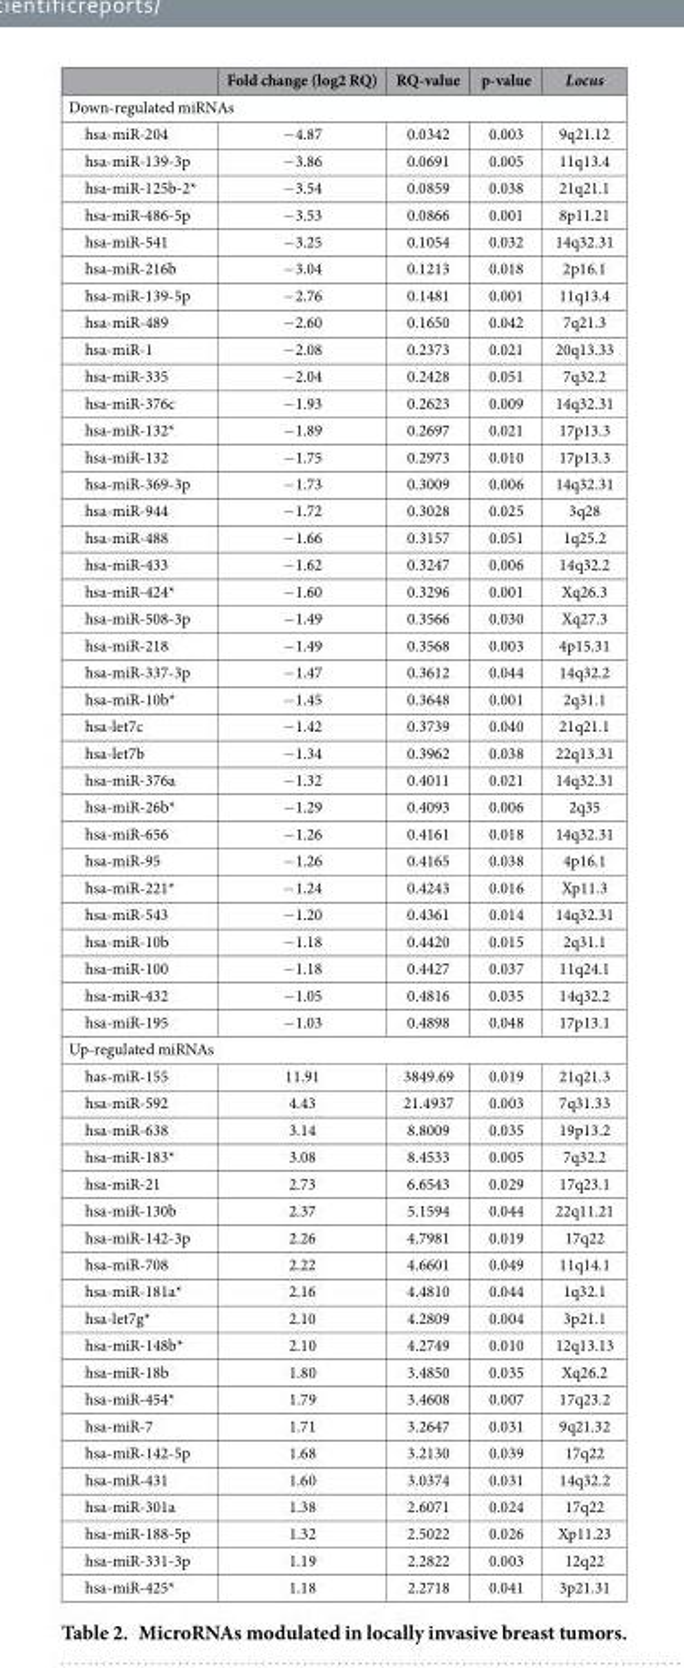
<table><thead><tr><td></td><td>Fold change (log2 RQ)</td><td>RQ-value</td><td>p-value</td><td>Locus</td></tr></thead><tbody><tr><td colspan="5">Down-regulated miRNAs</td></tr><tr><td>hsa-miR-204</td><td>−4.87</td><td>0.0342</td><td>0.003</td><td>9q21.12</td></tr><tr><td>hsa-miR-139-3p</td><td>−3.86</td><td>0.0691</td><td>0.005</td><td>11q13.4</td></tr><tr><td>hsa-miR-125b-2*</td><td>−3.54</td><td>0.0859</td><td>0.038</td><td>21q21.1</td></tr><tr><td>hsa-miR-486-5p</td><td>−3.53</td><td>0.0866</td><td>0.001</td><td>8p11.21</td></tr><tr><td>hsa-miR-541</td><td>−3.25</td><td>0.1054</td><td>0.032</td><td>14q32.31</td></tr><tr><td>hsa-miR-216b</td><td>−3.04</td><td>0.1213</td><td>0.018</td><td>2p16.1</td></tr><tr><td>hsa-miR-139-5p</td><td>−2.76</td><td>0.1481</td><td>0.001</td><td>11q13.4</td></tr><tr><td>hsa-miR-489</td><td>−2.60</td><td>0.1650</td><td>0.042</td><td>7q21.3</td></tr><tr><td>hsa-miR-1</td><td>−2.08</td><td>0.2373</td><td>0.021</td><td>20q13.33</td></tr><tr><td>hsa-miR-335</td><td>−2.04</td><td>0.2428</td><td>0.051</td><td>7q32.2</td></tr><tr><td>hsa-miR-376c</td><td>−1.93</td><td>0.2623</td><td>0.009</td><td>14q32.31</td></tr><tr><td>hsa-miR-132*</td><td>−1.89</td><td>0.2697</td><td>0.021</td><td>17p13.3</td></tr><tr><td>hsa-miR-132</td><td>−1.75</td><td>0.2973</td><td>0.010</td><td>17p13.3</td></tr><tr><td>hsa-miR-369-3p</td><td>−1.73</td><td>0.3009</td><td>0.006</td><td>14q32.31</td></tr><tr><td>hsa-miR-944</td><td>−1.72</td><td>0.3028</td><td>0.025</td><td>3q28</td></tr><tr><td>hsa-miR-488</td><td>−1.66</td><td>0.3157</td><td>0.051</td><td>1q25.2</td></tr><tr><td>hsa-miR-433</td><td>−1.62</td><td>0.3247</td><td>0.006</td><td>14q32.2</td></tr><tr><td>hsa-miR-424*</td><td>−1.60</td><td>0.3296</td><td>0.001</td><td>Xq26.3</td></tr><tr><td>hsa-miR-508-3p</td><td>−1.49</td><td>0.3566</td><td>0.030</td><td>Xq27.3</td></tr><tr><td>hsa-miR-218</td><td>−1.49</td><td>0.3568</td><td>0.003</td><td>4p15.31</td></tr><tr><td>hsa-miR-337-3p</td><td>−1.47</td><td>0.3612</td><td>0.044</td><td>14q32.2</td></tr><tr><td>hsa-miR-10b*</td><td>−1.45</td><td>0.3648</td><td>0.001</td><td>2q31.1</td></tr><tr><td>hsa-let7c</td><td>−1.42</td><td>0.3739</td><td>0.040</td><td>21q21.1</td></tr><tr><td>hsa-let7b</td><td>−1.34</td><td>0.3962</td><td>0.038</td><td>22q13.31</td></tr><tr><td>hsa-miR-376a</td><td>−1.32</td><td>0.4011</td><td>0.021</td><td>14q32.31</td></tr><tr><td>hsa-miR-26b*</td><td>−1.29</td><td>0.4093</td><td>0.006</td><td>2q35</td></tr><tr><td>hsa-miR-656</td><td>−1.26</td><td>0.4161</td><td>0.018</td><td>14q32.31</td></tr><tr><td>hsa-miR-95</td><td>−1.26</td><td>0.4165</td><td>0.038</td><td>4p16.1</td></tr><tr><td>hsa-miR-221*</td><td>−1.24</td><td>0.4243</td><td>0.016</td><td>Xp11.3</td></tr><tr><td>hsa-miR-543</td><td>−1.20</td><td>0.4361</td><td>0.014</td><td>14q32.31</td></tr><tr><td>hsa-miR-10b</td><td>−1.18</td><td>0.4420</td><td>0.015</td><td>2q31.1</td></tr><tr><td>hsa-miR-100</td><td>−1.18</td><td>0.4427</td><td>0.037</td><td>11q24.1</td></tr><tr><td>hsa-miR-432</td><td>−1.05</td><td>0.4816</td><td>0.035</td><td>14q32.2</td></tr><tr><td>hsa-miR-195</td><td>−1.03</td><td>0.4898</td><td>0.048</td><td>17p13.1</td></tr><tr><td colspan="5">Up-regulated miRNAs</td></tr><tr><td>has-miR-155</td><td>11.91</td><td>3849.69</td><td>0.019</td><td>21q21.3</td></tr><tr><td>hsa-miR-592</td><td>4.43</td><td>21.4937</td><td>0.003</td><td>7q31.33</td></tr><tr><td>hsa-miR-638</td><td>3.14</td><td>8.8009</td><td>0.035</td><td>19p13.2</td></tr><tr><td>hsa-miR-183*</td><td>3.08</td><td>8.4533</td><td>0.005</td><td>7q32.2</td></tr><tr><td>hsa-miR-21</td><td>2.73</td><td>6.6543</td><td>0.029</td><td>17q23.1</td></tr><tr><td>hsa-miR-130b</td><td>2.37</td><td>5.1594</td><td>0.044</td><td>22q11.21</td></tr><tr><td>hsa-miR-142-3p</td><td>2.26</td><td>4.7981</td><td>0.019</td><td>17q22</td></tr><tr><td>hsa-miR-708</td><td>2.22</td><td>4.6601</td><td>0.049</td><td>11q14.1</td></tr><tr><td>hsa-miR-181a*</td><td>2.16</td><td>4.4810</td><td>0.044</td><td>1q32.1</td></tr><tr><td>hsa-let7g*</td><td>2.10</td><td>4.2809</td><td>0.004</td><td>3p21.1</td></tr><tr><td>hsa-miR-148b*</td><td>2.10</td><td>4.2749</td><td>0.010</td><td>12q13.13</td></tr><tr><td>hsa-miR-18b</td><td>1.80</td><td>3.4850</td><td>0.035</td><td>Xq26.2</td></tr><tr><td>hsa-miR-454*</td><td>1.79</td><td>3.4608</td><td>0.007</td><td>17q23.2</td></tr><tr><td>hsa-miR-7</td><td>1.71</td><td>3.2647</td><td>0.031</td><td>9q21.32</td></tr><tr><td>hsa-miR-142-5p</td><td>1.68</td><td>3.2130</td><td>0.039</td><td>17q22</td></tr><tr><td>hsa-miR-431</td><td>1.60</td><td>3.0374</td><td>0.031</td><td>14q32.2</td></tr><tr><td>hsa-miR-301a</td><td>1.38</td><td>2.6071</td><td>0.024</td><td>17q22</td></tr><tr><td>hsa-miR-188-5p</td><td>1.32</td><td>2.5022</td><td>0.026</td><td>Xp11.23</td></tr><tr><td>hsa-miR-331-3p</td><td>1.19</td><td>2.2822</td><td>0.003</td><td>12q22</td></tr><tr><td>hsa-miR-425*</td><td>1.18</td><td>2.2718</td><td>0.041</td><td>3p21.31</td></tr></tbody></table>